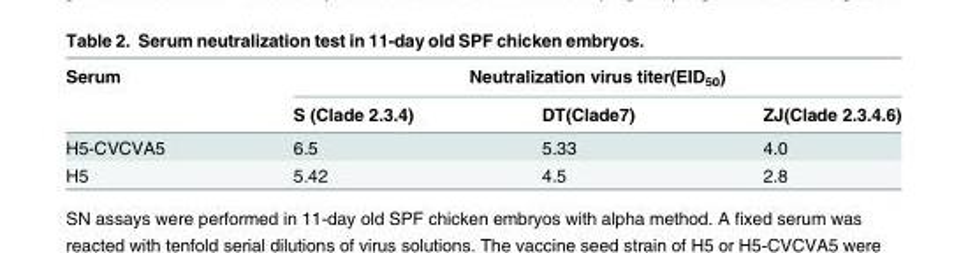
<table><thead><tr><td rowspan="2">Serum</td><td colspan="3">Neutralization virus titer(EID<sub>50</sub>)</td></tr><tr><td>S (Clade 2.3.4)</td><td>DT(Clade7)</td><td>ZJ(Clade 2.3.4.6)</td></tr></thead><tbody><tr><td>H5-CVCVA5</td><td>6.5</td><td>5.33</td><td>4.0</td></tr><tr><td>H5</td><td>5.42</td><td>4.5</td><td>2.8</td></tr></tbody></table>